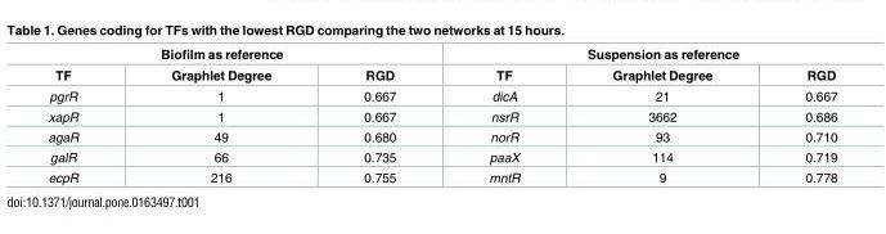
<table><thead><tr><td colspan="3">Biofilm as reference</td><td colspan="3">Suspension as reference</td></tr><tr><td>TF</td><td>Graphlet Degree</td><td>RGD</td><td>TF</td><td>Graphlet Degree</td><td>RGD</td></tr></thead><tbody><tr><td>pgrR</td><td>1</td><td>0.667</td><td>dicA</td><td>21</td><td>0.667</td></tr><tr><td>xapR</td><td>1</td><td>0.667</td><td>nsrR</td><td>3662</td><td>0.686</td></tr><tr><td>agaR</td><td>49</td><td>0.680</td><td>norR</td><td>93</td><td>0.710</td></tr><tr><td>galR</td><td>66</td><td>0.735</td><td>paaX</td><td>114</td><td>0.719</td></tr><tr><td>ecpR</td><td>216</td><td>0.755</td><td>mntR</td><td>9</td><td>0.778</td></tr></tbody></table>